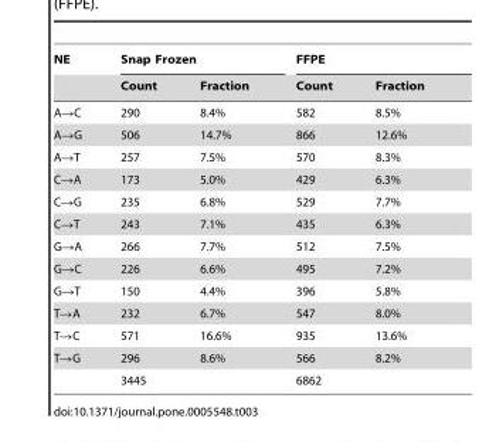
<table><thead><tr><td rowspan="2">NE</td><td colspan="2">Snap Frozen</td><td colspan="2">FFPE</td></tr><tr><td>Count</td><td>Fraction</td><td>Count</td><td>Fraction</td></tr></thead><tbody><tr><td>A→C</td><td>290</td><td>8.4%</td><td>582</td><td>8.5%</td></tr><tr><td>A→G</td><td>506</td><td>14.7%</td><td>866</td><td>12.6%</td></tr><tr><td>A→T</td><td>257</td><td>7.5%</td><td>570</td><td>8.3%</td></tr><tr><td>C→A</td><td>173</td><td>5.0%</td><td>429</td><td>6.3%</td></tr><tr><td>C→G</td><td>235</td><td>6.8%</td><td>529</td><td>7.7%</td></tr><tr><td>C→T</td><td>243</td><td>7.1%</td><td>435</td><td>6.3%</td></tr><tr><td>G→A</td><td>266</td><td>7.7%</td><td>512</td><td>7.5%</td></tr><tr><td>G→C</td><td>226</td><td>6.6%</td><td>495</td><td>7.2%</td></tr><tr><td>G→T</td><td>150</td><td>4.4%</td><td>396</td><td>5.8%</td></tr><tr><td>T→A</td><td>232</td><td>6.7%</td><td>547</td><td>8.0%</td></tr><tr><td>T→C</td><td>571</td><td>16.6%</td><td>935</td><td>13.6%</td></tr><tr><td rowspan="2">T→G</td><td>296</td><td>8.6%</td><td>566</td><td>8.2%</td></tr><tr><td>3445</td><td></td><td>6862</td><td></td></tr></tbody></table>